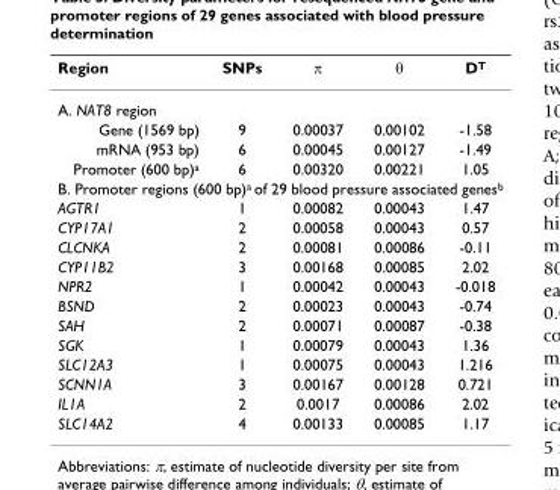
<table><thead><tr><td>Region</td><td>SNPs</td><td>π</td><td>θ</td><td>D<sup>T</sup></td></tr></thead><tbody><tr><td colspan="5">A. NAT8 region</td></tr><tr><td>Gene (1569 bp)</td><td>9</td><td>0.00037</td><td>0.00102</td><td>-1.58</td></tr><tr><td>mRNA (953 bp)</td><td>6</td><td>0.00045</td><td>0.00127</td><td>-1.49</td></tr><tr><td>Promoter (600 bp)<sup>a</sup></td><td>6</td><td>0.00320</td><td>0.00221</td><td>1.05</td></tr><tr><td colspan="5">B. Promoter regions (600 bp)<sup>a</sup> of 29 blood pressure associated genes<sup>b</sup></td></tr><tr><td>AGTR1</td><td>1</td><td>0.00082</td><td>0.00043</td><td>1.47</td></tr><tr><td>CYP17A1</td><td>2</td><td>0.00058</td><td>0.00043</td><td>0.57</td></tr><tr><td>CLCNKA</td><td>2</td><td>0.00081</td><td>0.00086</td><td>-0.11</td></tr><tr><td>CYP11B2</td><td>3</td><td>0.00168</td><td>0.00085</td><td>2.02</td></tr><tr><td>NPR2</td><td>1</td><td>0.00042</td><td>0.00043</td><td>-0.018</td></tr><tr><td>BSND</td><td>2</td><td>0.00023</td><td>0.00043</td><td>-0.74</td></tr><tr><td>SAH</td><td>2</td><td>0.00071</td><td>0.00087</td><td>-0.38</td></tr><tr><td>SGK</td><td>1</td><td>0.00079</td><td>0.00043</td><td>1.36</td></tr><tr><td>SLC12A3</td><td>1</td><td>0.00075</td><td>0.00043</td><td>1.216</td></tr><tr><td>SCNN1A</td><td>3</td><td>0.00167</td><td>0.00128</td><td>0.721</td></tr><tr><td>IL1A</td><td>2</td><td>0.0017</td><td>0.00086</td><td>2.02</td></tr><tr><td>SLC14A2</td><td>4</td><td>0.00133</td><td>0.00085</td><td>1.17</td></tr></tbody></table>